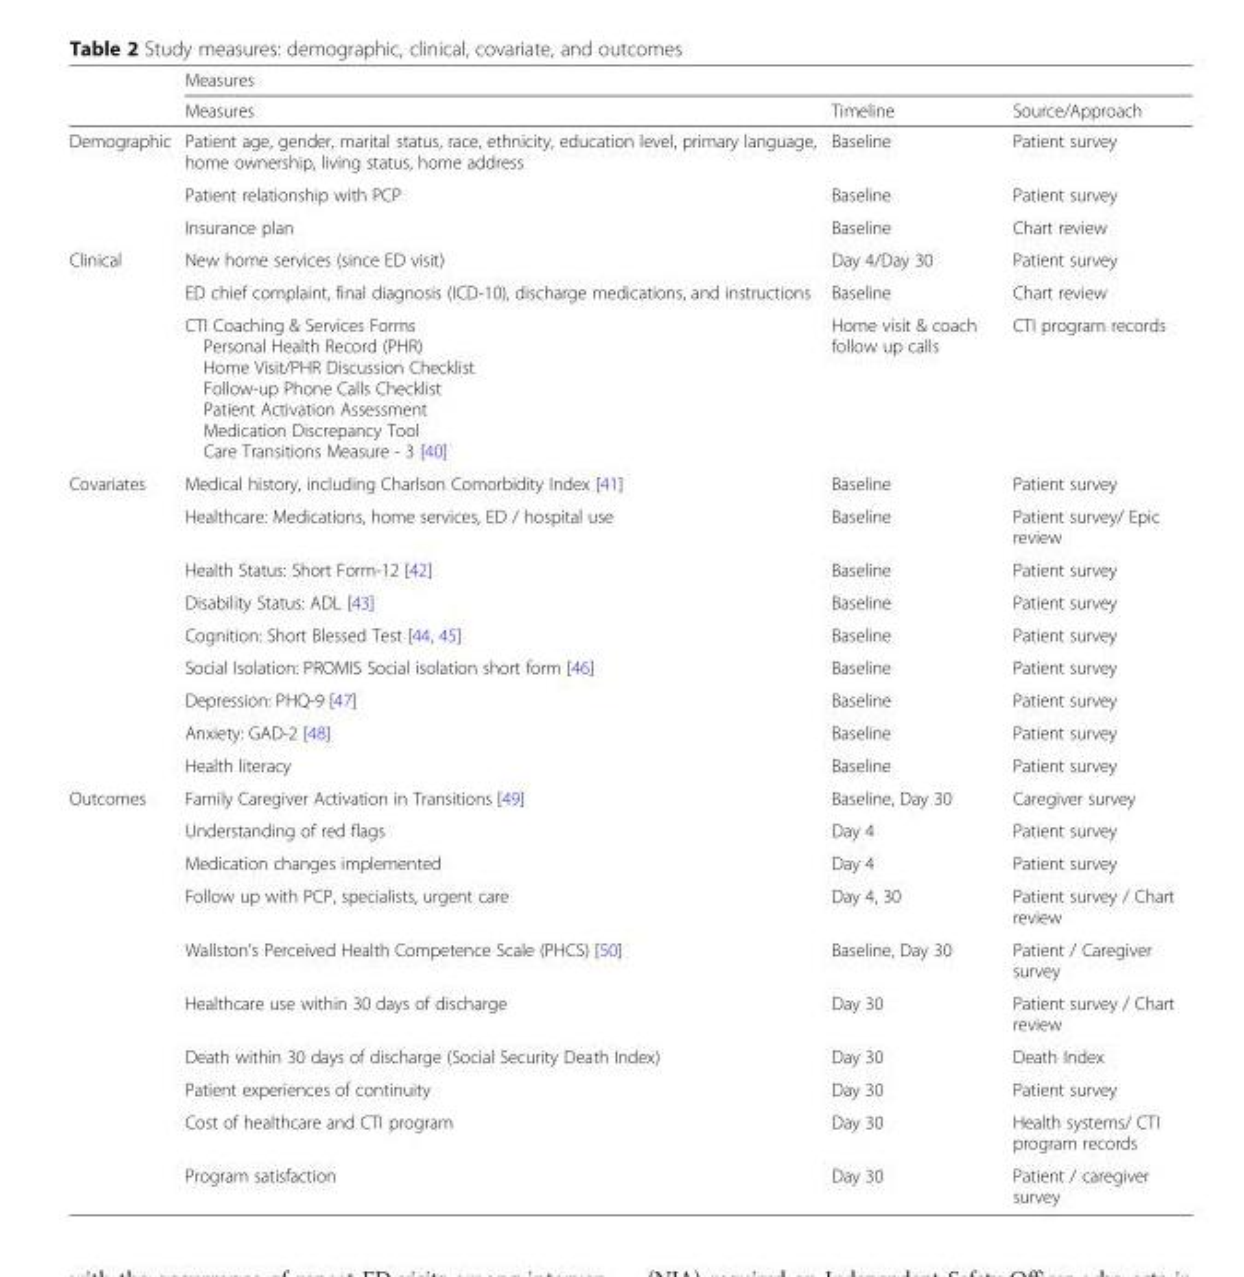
<table><thead><tr><td rowspan="2"></td><td colspan="3">Measures</td></tr><tr><td>Measures</td><td>Timeline</td><td>Source/Approach</td></tr></thead><tbody><tr><td rowspan="3">Demographic</td><td>Patient age, gender, marital status, race, ethnicity, education level, primary language, home ownership, living status, home address</td><td>Baseline</td><td>Patient survey</td></tr><tr><td>Patient relationship with PCP</td><td>Baseline</td><td>Patient survey</td></tr><tr><td>Insurance plan</td><td>Baseline</td><td>Chart review</td></tr><tr><td rowspan="3">Clinical</td><td>New home services (since ED visit)</td><td>Day 4/Day 30</td><td>Patient survey</td></tr><tr><td>ED chief complaint, final diagnosis (ICD-10), discharge medications, and instructions</td><td>Baseline</td><td>Chart review</td></tr><tr><td>CTI Coaching &amp; Services Forms Personal Health Record (PHR) Home Visit/PHR Discussion Checklist Follow-up Phone Calls Checklist Patient Activation Assessment Medication Discrepancy Tool Care Transitions Measure - 3 [40]</td><td>Home visit &amp; coach follow up calls</td><td>CTI program records</td></tr><tr><td rowspan="9">Covariates</td><td>Medical history, including Charlson Comorbidity Index [41]</td><td>Baseline</td><td>Patient survey</td></tr><tr><td>Healthcare: Medications, home services, ED / hospital use</td><td>Baseline</td><td>Patient survey/ Epic review</td></tr><tr><td>Health Status: Short Form-12 [42]</td><td>Baseline</td><td>Patient survey</td></tr><tr><td>Disability Status: ADL [43]</td><td>Baseline</td><td>Patient survey</td></tr><tr><td>Cognition: Short Blessed Test [44, 45]</td><td>Baseline</td><td>Patient survey</td></tr><tr><td>Social Isolation: PROMIS Social isolation short form [46]</td><td>Baseline</td><td>Patient survey</td></tr><tr><td>Depression: PHQ-9 [47]</td><td>Baseline</td><td>Patient survey</td></tr><tr><td>Anxiety: GAD-2 [48]</td><td>Baseline</td><td>Patient survey</td></tr><tr><td>Health literacy</td><td>Baseline</td><td>Patient survey</td></tr><tr><td rowspan="10">Outcomes</td><td>Family Caregiver Activation in Transitions [49]</td><td>Baseline, Day 30</td><td>Caregiver survey</td></tr><tr><td>Understanding of red flags</td><td>Day 4</td><td>Patient survey</td></tr><tr><td>Medication changes implemented</td><td>Day 4</td><td>Patient survey</td></tr><tr><td>Follow up with PCP, specialists, urgent care</td><td>Day 4, 30</td><td>Patient survey / Chart review</td></tr><tr><td>Wallston’s Perceived Health Competence Scale (PHCS) [50]</td><td>Baseline, Day 30</td><td>Patient / Caregiver survey</td></tr><tr><td>Healthcare use within 30 days of discharge</td><td>Day 30</td><td>Patient survey / Chart review</td></tr><tr><td>Death within 30 days of discharge (Social Security Death Index)</td><td>Day 30</td><td>Death Index</td></tr><tr><td>Patient experiences of continuity</td><td>Day 30</td><td>Patient survey</td></tr><tr><td>Cost of healthcare and CTI program</td><td>Day 30</td><td>Health systems/ CTI program records</td></tr><tr><td>Program satisfaction</td><td>Day 30</td><td>Patient / caregiver survey</td></tr></tbody></table>